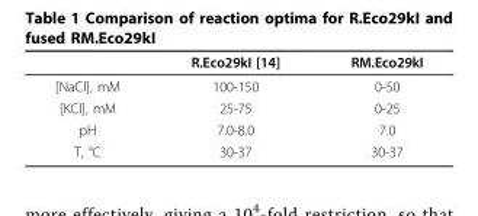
<table><thead><tr><td></td><td>R.Eco29kI [14]</td><td>RM.Eco29kI</td></tr></thead><tbody><tr><td>[NaCl], mM</td><td>100-150</td><td>0-50</td></tr><tr><td>[KCl], mM</td><td>25-75</td><td>0-25</td></tr><tr><td>pH</td><td>7.0-8.0</td><td>7.0</td></tr><tr><td>T, °C</td><td>30-37</td><td>30-37</td></tr></tbody></table>